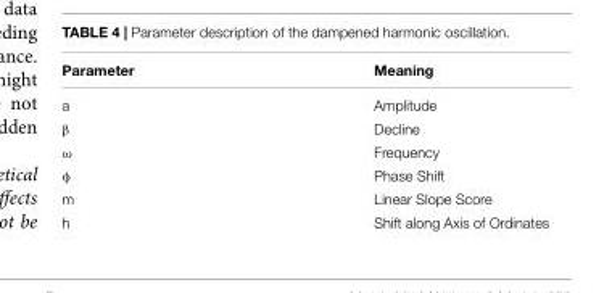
<table><thead><tr><td>Parameter</td><td>Meaning</td></tr></thead><tbody><tr><td>a</td><td>Amplitude</td></tr><tr><td>β</td><td>Decline</td></tr><tr><td>ω</td><td>Frequency</td></tr><tr><td>φ</td><td>Phase Shift</td></tr><tr><td>m</td><td>Linear Slope Score</td></tr><tr><td>h</td><td>Shift along Axis of Ordinates</td></tr></tbody></table>